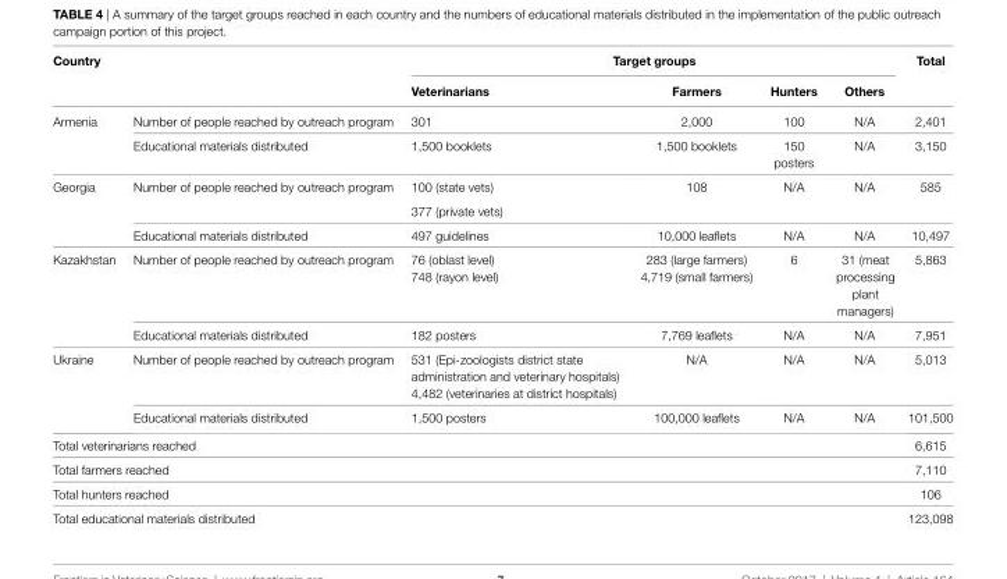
<table><thead><tr><td rowspan="2">Country</td><td rowspan="2"></td><td colspan="4">target groups</td><td rowspan="2">total</td></tr><tr><td>Veterinarians</td><td>Farmers</td><td>Hunters</td><td>others</td></tr></thead><tbody><tr><td rowspan="2">Armenia</td><td>Number of people reached by outreach program</td><td>301</td><td>2,000</td><td>100</td><td>N/A</td><td>2,401</td></tr><tr><td>Educational materials distributed</td><td>1,500 booklets</td><td>1,500 booklets</td><td>150 posters</td><td>N/A</td><td>3,150</td></tr><tr><td rowspan="3">Georgia</td><td rowspan="2">Number of people reached by outreach program</td><td>100 (state vets)</td><td rowspan="2">108</td><td rowspan="2">N/A</td><td rowspan="2">N/A</td><td rowspan="2">585</td></tr><tr><td>377 (private vets)</td></tr><tr><td>Educational materials distributed</td><td>497 guidelines</td><td>10,000 leaflets</td><td>N/A</td><td>N/A</td><td>10,497</td></tr><tr><td rowspan="3">Kazakhstan</td><td rowspan="2">Number of people reached by outreach program</td><td>76 (oblast level)</td><td>283 (large farmers)</td><td rowspan="2">6</td><td rowspan="2">31 (meat processing plant managers)</td><td rowspan="2">5,863</td></tr><tr><td>748 (rayon level)</td><td>4,719 (small farmers)</td></tr><tr><td>Educational materials distributed</td><td>182 posters</td><td>7,769 leaflets</td><td>N/A</td><td>N/A</td><td>7,951</td></tr><tr><td rowspan="3">Ukraine</td><td rowspan="2">Number of people reached by outreach program</td><td>531 (Epi-zoologists district state administration and veterinary hospitals)</td><td rowspan="2">N/A</td><td rowspan="2">N/A</td><td rowspan="2">N/A</td><td rowspan="2">5,013</td></tr><tr><td>4,482 (veterinaries at district hospitals)</td></tr><tr><td>Educational materials distributed</td><td>1,500 posters</td><td>100,000 leaflets</td><td>N/A</td><td>N/A</td><td>101,500</td></tr><tr><td colspan="6">Total veterinarians reached</td><td>6,615</td></tr><tr><td colspan="6">Total farmers reached</td><td>7,110</td></tr><tr><td colspan="6">Total hunters reached</td><td>106</td></tr><tr><td colspan="6">Total educational materials distributed</td><td>123,098</td></tr></tbody></table>